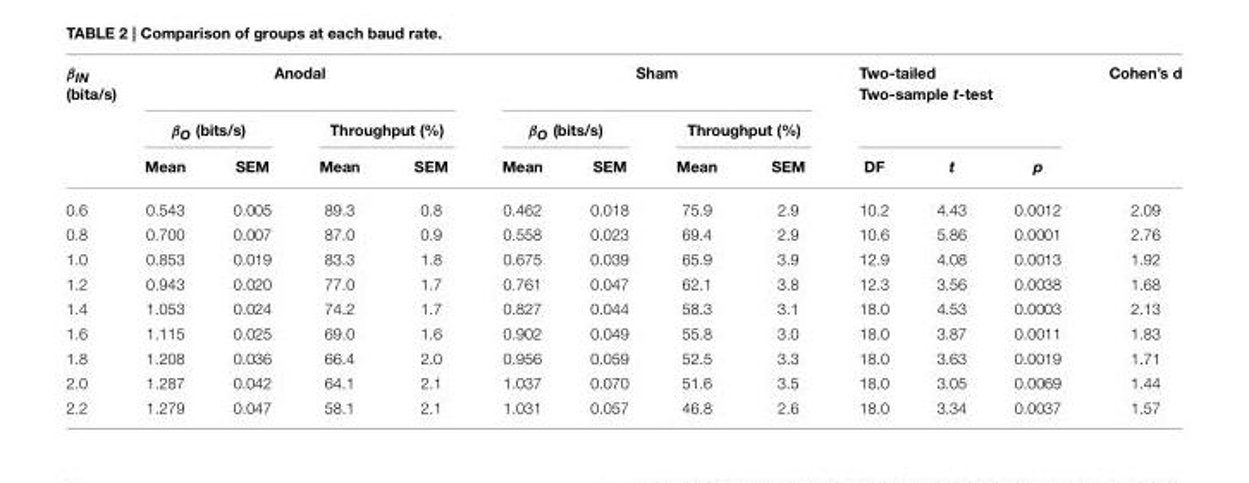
<table><thead><tr><td rowspan="3">β<sub>IN</sub> (bita/s)</td><td colspan="4">Anodal</td><td colspan="4">Sham</td><td colspan="3">Two-tailed Two-sample t-test</td><td rowspan="3">Cohen’s d</td></tr><tr><td colspan="2">β<sub>O</sub> (bits/s)</td><td colspan="2">Throughput (%)</td><td colspan="2">β<sub>O</sub> (bits/s)</td><td colspan="2">Throughput (%)</td><td rowspan="2">DF</td><td rowspan="2">t</td><td rowspan="2">p</td></tr><tr><td>Mean</td><td>SEM</td><td>Mean</td><td>SEM</td><td>Mean</td><td>SEM</td><td>Mean</td><td>SEM</td></tr></thead><tbody><tr><td>0.6</td><td>0.543</td><td>0.005</td><td>89.3</td><td>0.8</td><td>0.462</td><td>0.018</td><td>75.9</td><td>2.9</td><td>10.2</td><td>4.43</td><td>0.0012</td><td>2.09</td></tr><tr><td>0.8</td><td>0.700</td><td>0.007</td><td>87.0</td><td>0.9</td><td>0.558</td><td>0.023</td><td>69.4</td><td>2.9</td><td>10.6</td><td>5.86</td><td>0.0001</td><td>2.76</td></tr><tr><td>1.0</td><td>0.853</td><td>0.019</td><td>83.3</td><td>1.8</td><td>0.675</td><td>0.039</td><td>65.9</td><td>3.9</td><td>12.9</td><td>4.08</td><td>0.0013</td><td>1.92</td></tr><tr><td>1.2</td><td>0.943</td><td>0.020</td><td>77.0</td><td>1.7</td><td>0.761</td><td>0.047</td><td>62.1</td><td>3.8</td><td>12.3</td><td>3.56</td><td>0.0038</td><td>1.68</td></tr><tr><td>1.4</td><td>1.053</td><td>0.024</td><td>74.2</td><td>1.7</td><td>0.827</td><td>0.044</td><td>58.3</td><td>3.1</td><td>18.0</td><td>4.53</td><td>0.0003</td><td>2.13</td></tr><tr><td>1.6</td><td>1.115</td><td>0.025</td><td>69.0</td><td>1.6</td><td>0.902</td><td>0.049</td><td>55.8</td><td>3.0</td><td>18.0</td><td>3.87</td><td>0.0011</td><td>1.83</td></tr><tr><td>1.8</td><td>1.208</td><td>0.036</td><td>66.4</td><td>2.0</td><td>0.956</td><td>0.059</td><td>52.5</td><td>3.3</td><td>18.0</td><td>3.63</td><td>0.0019</td><td>1.71</td></tr><tr><td>2.0</td><td>1.287</td><td>0.042</td><td>64.1</td><td>2.1</td><td>1.037</td><td>0.070</td><td>51.6</td><td>3.5</td><td>18.0</td><td>3.05</td><td>0.0069</td><td>1.44</td></tr><tr><td>2.2</td><td>1.279</td><td>0.047</td><td>58.1</td><td>2.1</td><td>1.031</td><td>0.057</td><td>46.8</td><td>2.6</td><td>18.0</td><td>3.34</td><td>0.0037</td><td>1.57</td></tr></tbody></table>